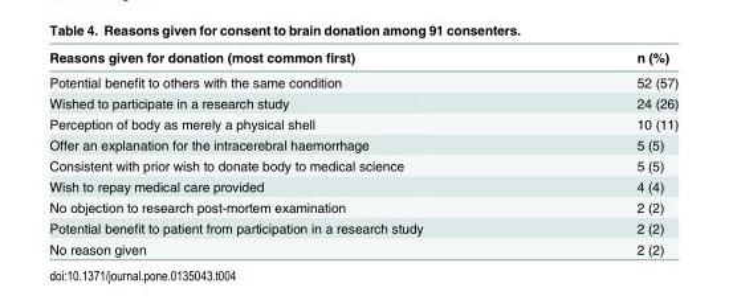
<table><thead><tr><td>Reasons given for donation (most common first)</td><td>n (%)</td></tr></thead><tbody><tr><td>Potential benefit to others with the same condition</td><td>52 (57)</td></tr><tr><td>Wished to participate in a research study</td><td>24 (26)</td></tr><tr><td>Perception of body as merely a physical shell</td><td>10 (11)</td></tr><tr><td>Offer an explanation for the intracerebral haemorrhage</td><td>5 (5)</td></tr><tr><td>Consistent with prior wish to donate body to medical science</td><td>5 (5)</td></tr><tr><td>Wish to repay medical care provided</td><td>4 (4)</td></tr><tr><td>No objection to research post-mortem examination</td><td>2 (2)</td></tr><tr><td>Potential benefit to patient from participation in a research study</td><td>2 (2)</td></tr><tr><td>No reason given</td><td>2 (2)</td></tr></tbody></table>